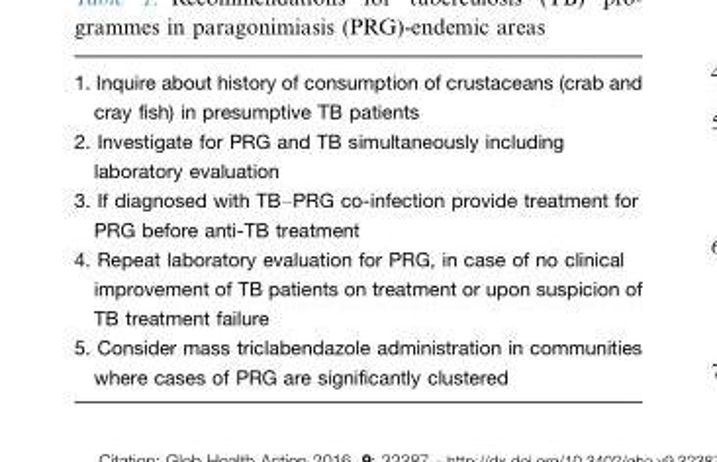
<table><tbody><tr><td>1.</td><td>Inquire about history of consumption of crustaceans (crab and cray fish) in presumptive TB patients</td></tr><tr><td>2.</td><td>Investigate for PRG and TB simultaneously including laboratory evaluation</td></tr><tr><td>3.</td><td>If diagnosed with TB–PRG co-infection provide treatment for PRG before anti-TB treatment</td></tr><tr><td>4.</td><td>Repeat laboratory evaluation for PRG, in case of no clinical improvement of TB patients on treatment or upon suspicion of TB treatment failure</td></tr><tr><td>5.</td><td>Consider mass triclabendazole administration in communities where cases of PRG are significantly clustered</td></tr></tbody></table>